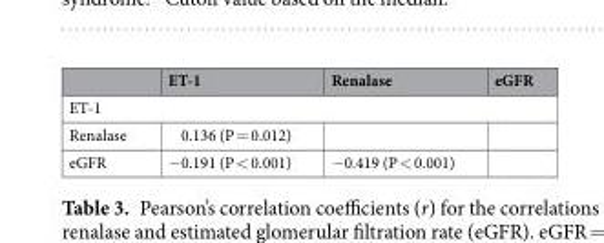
<table><thead><tr><td></td><td>ET-1</td><td>Renalase</td><td>eGFR</td></tr></thead><tbody><tr><td colspan="4">ET-1</td></tr><tr><td>Renalase</td><td>0.136 (P = 0.012)</td><td></td><td></td></tr><tr><td>eGFR</td><td>−0.191 (P &lt; 0.001)</td><td>−0.419 (P &lt; 0.001)</td><td></td></tr></tbody></table>